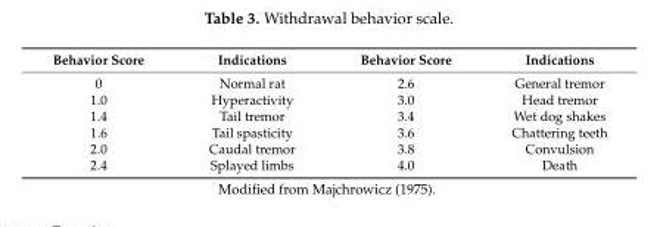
<table><thead><tr><td>Behavior Score</td><td>Indications</td><td>Behavior Score</td><td>Indications</td></tr></thead><tbody><tr><td>0</td><td>Normal rat</td><td>2.6</td><td>General tremor</td></tr><tr><td>1.0</td><td>Hyperactivity</td><td>3.0</td><td>Head tremor</td></tr><tr><td>1.4</td><td>Tail tremor</td><td>3.4</td><td>Wet dog shakes</td></tr><tr><td>1.6</td><td>Tail spasticity</td><td>3.6</td><td>Chattering teeth</td></tr><tr><td>2.0</td><td>Caudal tremor</td><td>3.8</td><td>Convulsion</td></tr><tr><td>2.4</td><td>Splayed limbs</td><td>4.0</td><td>Death</td></tr></tbody></table>